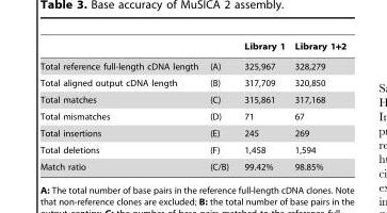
<table><thead><tr><td></td><td></td><td>Library 1</td><td>Library 1+2</td></tr></thead><tbody><tr><td>Total reference full-length cDNA length</td><td>(A)</td><td>325,967</td><td>328,279</td></tr><tr><td>Total aligned output cDNA length</td><td>(B)</td><td>317,709</td><td>320,850</td></tr><tr><td>Total matches</td><td>(C)</td><td>315,861</td><td>317,168</td></tr><tr><td>Total mismatches</td><td>(D)</td><td>71</td><td>67</td></tr><tr><td>Total insertions</td><td>(E)</td><td>245</td><td>269</td></tr><tr><td>Total deletions</td><td>(F)</td><td>1,458</td><td>1,594</td></tr><tr><td>Match ratio</td><td>(C/B)</td><td>99.42%</td><td>98.85%</td></tr></tbody></table>